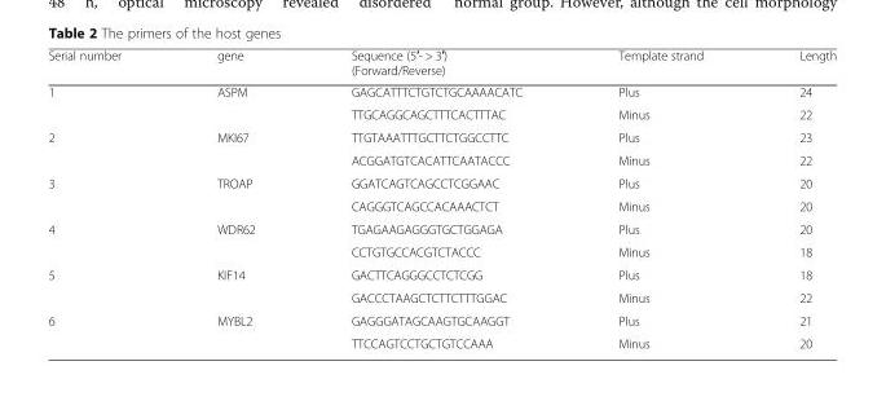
<table><thead><tr><td>Serial number</td><td>gene</td><td>Sequence (5′- &gt; 3′) (Forward/Reverse)</td><td>Template strand</td><td>Length</td></tr></thead><tbody><tr><td rowspan="2">1</td><td>ASPM</td><td>GAGCATTTCTGTCTGCAAAACATC</td><td>Plus</td><td>24</td></tr><tr><td></td><td>TTGCAGGCAGCTTTCACTTTAC</td><td>Minus</td><td>22</td></tr><tr><td rowspan="2">2</td><td>MKI67</td><td>TTGTAAATTTGCTTCTGGCCTTC</td><td>Plus</td><td>23</td></tr><tr><td></td><td>ACGGATGTCACATTCAATACCC</td><td>Minus</td><td>22</td></tr><tr><td rowspan="2">3</td><td>TROAP</td><td>GGATCAGTCAGCCTCGGAAC</td><td>Plus</td><td>20</td></tr><tr><td></td><td>CAGGGTCAGCCACAAACTCT</td><td>Minus</td><td>20</td></tr><tr><td rowspan="2">4</td><td>WDR62</td><td>TGAGAAGAGGGTGCTGGAGA</td><td>Plus</td><td>20</td></tr><tr><td></td><td>CCTGTGCCACGTCTACCC</td><td>Minus</td><td>18</td></tr><tr><td rowspan="2">5</td><td>KIF14</td><td>GACTTCAGGGCCTCTCGG</td><td>Plus</td><td>18</td></tr><tr><td></td><td>GACCCTAAGCTCTTCTTTGGAC</td><td>Minus</td><td>22</td></tr><tr><td rowspan="2">6</td><td>MYBL2</td><td>GAGGGATAGCAAGTGCAAGGT</td><td>Plus</td><td>21</td></tr><tr><td></td><td>TTCCAGTCCTGCTGTCCAAA</td><td>Minus</td><td>20</td></tr></tbody></table>